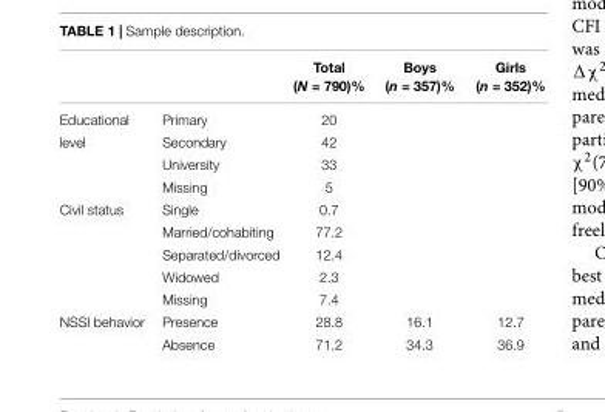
<table><thead><tr><td></td><td></td><td>Total (N = 790)%</td><td>Boys (n = 357)%</td><td>Girls (n = 352)%</td></tr></thead><tbody><tr><td>Educational</td><td>Primary</td><td>20</td><td></td><td></td></tr><tr><td rowspan="3">level</td><td>Secondary</td><td>42</td><td></td><td></td></tr><tr><td>University</td><td>33</td><td></td><td></td></tr><tr><td>Missing</td><td>5</td><td></td><td></td></tr><tr><td rowspan="5">Civil status</td><td>Single</td><td>0.7</td><td></td><td></td></tr><tr><td>Married/cohabiting</td><td>77.2</td><td></td><td></td></tr><tr><td>Separated/divorced</td><td>12.4</td><td></td><td></td></tr><tr><td>Widowed</td><td>2.3</td><td></td><td></td></tr><tr><td>Missing</td><td>7.4</td><td></td><td></td></tr><tr><td rowspan="2">NSSI behavior</td><td>Presence</td><td>28.8</td><td>16.1</td><td>12.7</td></tr><tr><td>Absence</td><td>71.2</td><td>34.3</td><td>36.9</td></tr></tbody></table>